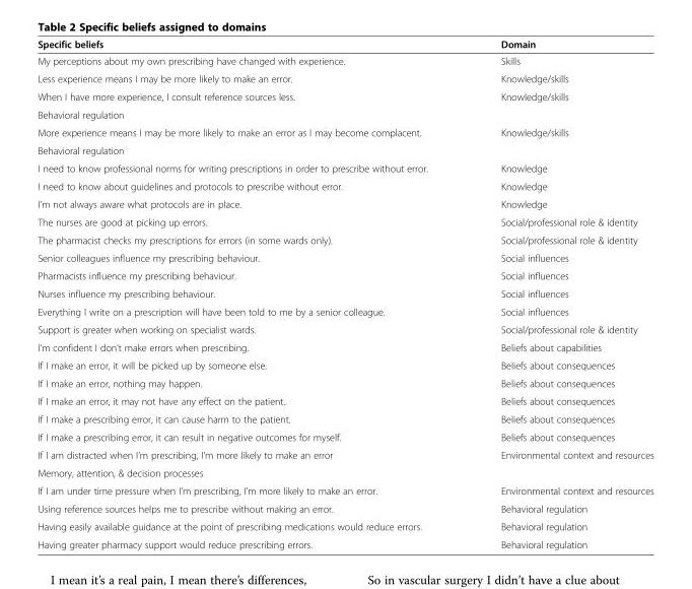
<table><thead><tr><td>Specific beliefs</td><td>Domain</td></tr></thead><tbody><tr><td>My perceptions about my own prescribing have changed with experience.</td><td>Skills</td></tr><tr><td>Less experience means I may be more likely to make an error.</td><td>Knowledge/skills</td></tr><tr><td>When I have more experience, I consult reference sources less.</td><td>Knowledge/skills</td></tr><tr><td colspan="2">Behavioral regulation</td></tr><tr><td>More experience means I may be more likely to make an error as I may become complacent.</td><td>Knowledge/skills</td></tr><tr><td colspan="2">Behavioral regulation</td></tr><tr><td>I need to know professional norms for writing prescriptions in order to prescribe without error.</td><td>Knowledge</td></tr><tr><td>I need to know about guidelines and protocols to prescribe without error.</td><td>Knowledge</td></tr><tr><td>I’m not always aware what protocols are in place.</td><td>Knowledge</td></tr><tr><td>The nurses are good at picking up errors.</td><td>Social/professional role &amp; identity</td></tr><tr><td>The pharmacist checks my prescriptions for errors (in some wards only).</td><td>Social/professional role &amp; identity</td></tr><tr><td>Senior colleagues influence my prescribing behaviour.</td><td>Social influences</td></tr><tr><td>Pharmacists influence my prescribing behaviour.</td><td>Social influences</td></tr><tr><td>Nurses influence my prescribing behaviour.</td><td>Social influences</td></tr><tr><td>Everything I write on a prescription will have been told to me by a senior colleague.</td><td>Social influences</td></tr><tr><td>Support is greater when working on specialist wards.</td><td>Social/professional role &amp; identity</td></tr><tr><td>I’m confident I don’t make errors when prescribing.</td><td>Beliefs about capabilities</td></tr><tr><td>If I make an error, it will be picked up by someone else.</td><td>Beliefs about consequences</td></tr><tr><td>If I make an error, nothing may happen.</td><td>Beliefs about consequences</td></tr><tr><td>If I make an error, it may not have any effect on the patient.</td><td>Beliefs about consequences</td></tr><tr><td>If I make a prescribing error, it can cause harm to the patient.</td><td>Beliefs about consequences</td></tr><tr><td>If I make a prescribing error, it can result in negative outcomes for myself.</td><td>Beliefs about consequences</td></tr><tr><td>If I am distracted when I’m prescribing, I’m more likely to make an error</td><td>Environmental context and resources</td></tr><tr><td colspan="2">Memory, attention, &amp; decision processes</td></tr><tr><td>If I am under time pressure when I’m prescribing, I’m more likely to make an error.</td><td>Environmental context and resources</td></tr><tr><td>Using reference sources helps me to prescribe without making an error.</td><td>Behavioral regulation</td></tr><tr><td>Having easily available guidance at the point of prescribing medications would reduce errors.</td><td>Behavioral regulation</td></tr><tr><td>Having greater pharmacy support would reduce prescribing errors.</td><td>Behavioral regulation</td></tr></tbody></table>